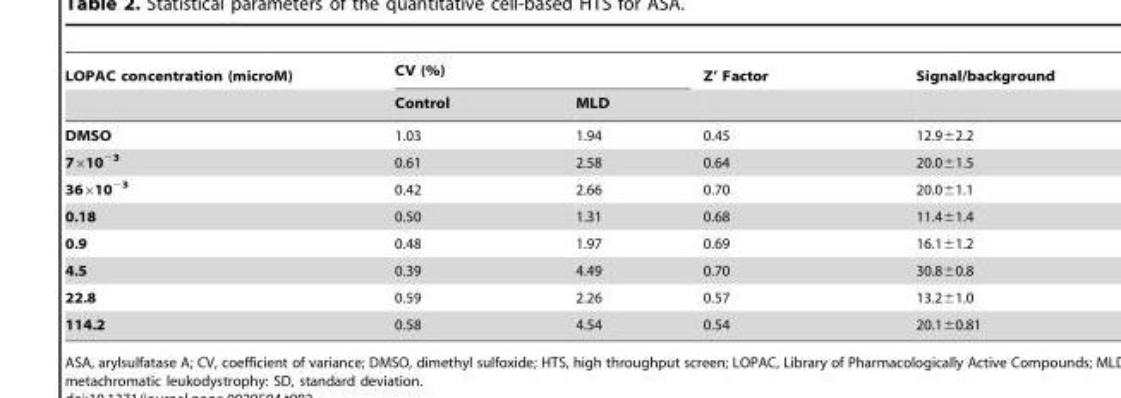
<table><thead><tr><td rowspan="2">LOPAC concentration (microM)</td><td colspan="2">CV (%)</td><td rowspan="2">Z’ Factor</td><td rowspan="2">Signal/background</td></tr><tr><td>Control</td><td>MLD</td></tr></thead><tbody><tr><td>DMSO</td><td>1.03</td><td>1.94</td><td>0.45</td><td>12.9±2.2</td></tr><tr><td>7×10<sup>−3</sup></td><td>0.61</td><td>2.58</td><td>0.64</td><td>20.0±1.5</td></tr><tr><td>36×10<sup>−3</sup></td><td>0.42</td><td>2.66</td><td>0.70</td><td>20.0±1.1</td></tr><tr><td>0.18</td><td>0.50</td><td>1.31</td><td>0.68</td><td>11.4±1.4</td></tr><tr><td>0.9</td><td>0.48</td><td>1.97</td><td>0.69</td><td>16.1±1.2</td></tr><tr><td>4.5</td><td>0.39</td><td>4.49</td><td>0.70</td><td>30.8±0.8</td></tr><tr><td>22.8</td><td>0.59</td><td>2.26</td><td>0.57</td><td>13.2±1.0</td></tr><tr><td>114.2</td><td>0.58</td><td>4.54</td><td>0.54</td><td>20.1±0.81</td></tr></tbody></table>